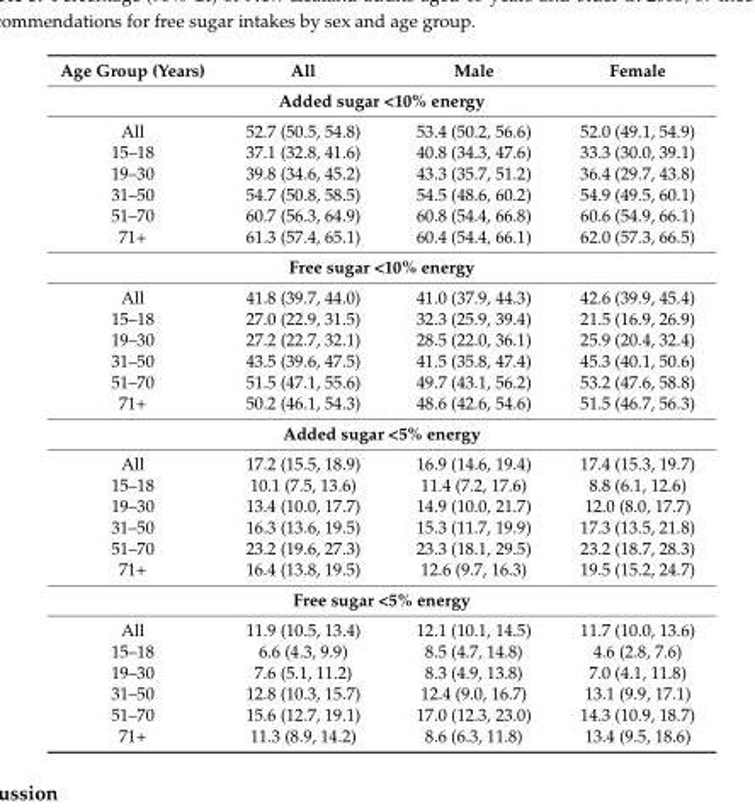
<table><thead><tr><td>Age Group (Years)</td><td>All</td><td>Male</td><td>Female</td></tr></thead><tbody><tr><td colspan="4">Added sugar &lt;10% energy</td></tr><tr><td>All</td><td>52.7 (50.5, 54.8)</td><td>53.4 (50.2, 56.6)</td><td>52.0 (49.1, 54.9)</td></tr><tr><td>15–18</td><td>37.1 (32.8, 41.6)</td><td>40.8 (34.3, 47.6)</td><td>33.3 (30.0, 39.1)</td></tr><tr><td>19–30</td><td>39.8 (34.6, 45.2)</td><td>43.3 (35.7, 51.2)</td><td>36.4 (29.7, 43.8)</td></tr><tr><td>31–50</td><td>54.7 (50.8, 58.5)</td><td>54.5 (48.6, 60.2)</td><td>54.9 (49.5, 60.1)</td></tr><tr><td>51–70</td><td>60.7 (56.3, 64.9)</td><td>60.8 (54.4, 66.8)</td><td>60.6 (54.9, 66.1)</td></tr><tr><td>71+</td><td>61.3 (57.4, 65.1)</td><td>60.4 (54.4, 66.1)</td><td>62.0 (57.3, 66.5)</td></tr><tr><td colspan="4">Free sugar &lt;10% energy</td></tr><tr><td>All</td><td>41.8 (39.7, 44.0)</td><td>41.0 (37.9, 44.3)</td><td>42.6 (39.9, 45.4)</td></tr><tr><td>15–18</td><td>27.0 (22.9, 31.5)</td><td>32.3 (25.9, 39.4)</td><td>21.5 (16.9, 26.9)</td></tr><tr><td>19–30</td><td>27.2 (22.7, 32.1)</td><td>28.5 (22.0, 36.1)</td><td>25.9 (20.4, 32.4)</td></tr><tr><td>31–50</td><td>43.5 (39.6, 47.5)</td><td>41.5 (35.8, 47.4)</td><td>45.3 (40.1, 50.6)</td></tr><tr><td>51–70</td><td>51.5 (47.1, 55.6)</td><td>49.7 (43.1, 56.2)</td><td>53.2 (47.6, 58.8)</td></tr><tr><td>71+</td><td>50.2 (46.1, 54.3)</td><td>48.6 (42.6, 54.6)</td><td>51.5 (46.7, 56.3)</td></tr><tr><td colspan="4">Added sugar &lt;5% energy</td></tr><tr><td>All</td><td>17.2 (15.5, 18.9)</td><td>16.9 (14.6, 19.4)</td><td>17.4 (15.3, 19.7)</td></tr><tr><td>15–18</td><td>10.1 (7.5, 13.6)</td><td>11.4 (7.2, 17.6)</td><td>8.8 (6.1, 12.6)</td></tr><tr><td>19–30</td><td>13.4 (10.0, 17.7)</td><td>14.9 (10.0, 21.7)</td><td>12.0 (8.0, 17.7)</td></tr><tr><td>31–50</td><td>16.3 (13.6, 19.5)</td><td>15.3 (11.7, 19.9)</td><td>17.3 (13.5, 21.8)</td></tr><tr><td>51–70</td><td>23.2 (19.6, 27.3)</td><td>23.3 (18.1, 29.5)</td><td>23.2 (18.7, 28.3)</td></tr><tr><td>71+</td><td>16.4 (13.8, 19.5)</td><td>12.6 (9.7, 16.3)</td><td>19.5 (15.2, 24.7)</td></tr><tr><td colspan="4">Free sugar &lt;5% energy</td></tr><tr><td>All</td><td>11.9 (10.5, 13.4)</td><td>12.1 (10.1, 14.5)</td><td>11.7 (10.0, 13.6)</td></tr><tr><td>15–18</td><td>6.6 (4.3, 9.9)</td><td>8.5 (4.7, 14.8)</td><td>4.6 (2.8, 7.6)</td></tr><tr><td>19–30</td><td>7.6 (5.1, 11.2)</td><td>8.3 (4.9, 13.8)</td><td>7.0 (4.1, 11.8)</td></tr><tr><td>31–50</td><td>12.8 (10.3, 15.7)</td><td>12.4 (9.0, 16.7)</td><td>13.1 (9.9, 17.1)</td></tr><tr><td>51–70</td><td>15.6 (12.7, 19.1)</td><td>17.0 (12.3, 23.0)</td><td>14.3 (10.9, 18.7)</td></tr><tr><td>71+</td><td>11.3 (8.9, 14.2)</td><td>8.6 (6.3, 11.8)</td><td>13.4 (9.5, 18.6)</td></tr></tbody></table>